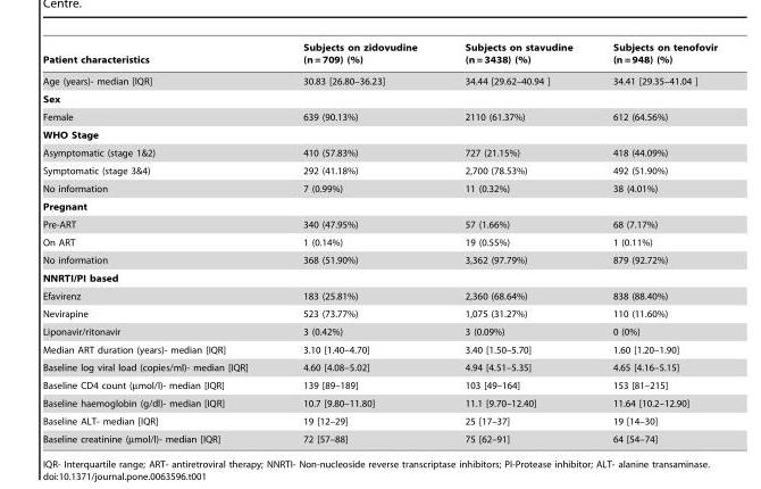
<table><thead><tr><td>Patient characteristics</td><td>Subjects on zidovudine (n = 709) (%)</td><td>Subjects on stavudine (n = 3438) (%)</td><td>Subjects on tenofovir (n = 948) (%)</td></tr></thead><tbody><tr><td>Age (years)- median [IQR]</td><td>30.83 [26.80–36.23]</td><td>34.44 [29.62–40.94 ]</td><td>34.41 [29.35–41.04 ]</td></tr><tr><td colspan="4">Sex</td></tr><tr><td>Female</td><td>639 (90.13%)</td><td>2110 (61.37%)</td><td>612 (64.56%)</td></tr><tr><td colspan="4">WHO Stage</td></tr><tr><td>Asymptomatic (stage 1&amp;2)</td><td>410 (57.83%)</td><td>727 (21.15%)</td><td>418 (44.09%)</td></tr><tr><td>Symptomatic (stage 3&amp;4)</td><td>292 (41.18%)</td><td>2,700 (78.53%)</td><td>492 (51.90%)</td></tr><tr><td>No information</td><td>7 (0.99%)</td><td>11 (0.32%)</td><td>38 (4.01%)</td></tr><tr><td colspan="4">Pregnant</td></tr><tr><td>Pre-ART</td><td>340 (47.95%)</td><td>57 (1.66%)</td><td>68 (7.17%)</td></tr><tr><td>On ART</td><td>1 (0.14%)</td><td>19 (0.55%)</td><td>1 (0.11%)</td></tr><tr><td>No information</td><td>368 (51.90%)</td><td>3,362 (97.79%)</td><td>879 (92.72%)</td></tr><tr><td colspan="4">NNRTI/PI based</td></tr><tr><td>Efavirenz</td><td>183 (25.81%)</td><td>2,360 (68.64%)</td><td>838 (88.40%)</td></tr><tr><td>Nevirapine</td><td>523 (73.77%)</td><td>1,075 (31.27%)</td><td>110 (11.60%)</td></tr><tr><td>Liponavir/ritonavir</td><td>3 (0.42%)</td><td>3 (0.09%)</td><td>0 (0%)</td></tr><tr><td>Median ART duration (years)- median [IQR]</td><td>3.10 [1.40–4.70]</td><td>3.40 [1.50–5.70]</td><td>1.60 [1.20–1.90]</td></tr><tr><td>Baseline log viral load (copies/ml)- median [IQR]</td><td>4.60 [4.08–5.02]</td><td>4.94 [4.51–5.35]</td><td>4.65 [4.16–5.15]</td></tr><tr><td>Baseline CD4 count (µmol/l)- median [IQR]</td><td>139 [89–189]</td><td>103 [49–164]</td><td>153 [81–215]</td></tr><tr><td>Baseline haemoglobin (g/dl)- median [IQR]</td><td>10.7 [9.80–11.80]</td><td>11.1 [9.70–12.40]</td><td>11.64 [10.2–12.90]</td></tr><tr><td>Baseline ALT- median [IQR]</td><td>19 [12–29]</td><td>25 [17–37]</td><td>19 [14–30]</td></tr><tr><td>Baseline creatinine (µmol/l)- median [IQR]</td><td>72 [57–88]</td><td>75 [62–91]</td><td>64 [54–74]</td></tr></tbody></table>